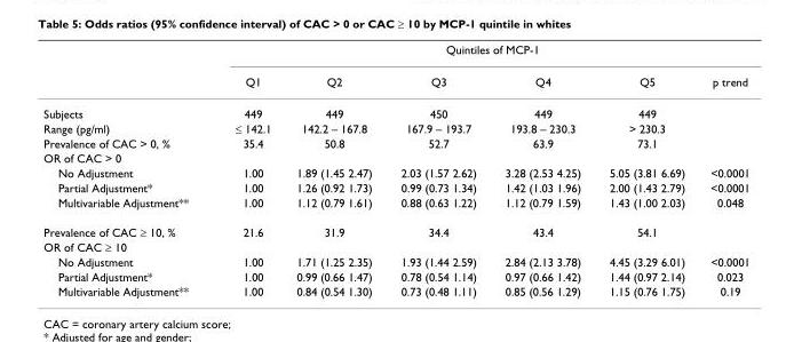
<table><thead><tr><td rowspan="2"></td><td colspan="6">Quintiles of MCP-1</td></tr><tr><td>Q1</td><td>Q2</td><td>Q3</td><td>Q4</td><td>Q5</td><td>p trend</td></tr></thead><tbody><tr><td>Subjects</td><td>449</td><td>449</td><td>450</td><td>449</td><td>449</td><td></td></tr><tr><td>Range (pg/ml)</td><td>≤ 142.1</td><td>142.2 – 167.8</td><td>167.9 – 193.7</td><td>193.8 – 230.3</td><td>&gt; 230.3</td><td></td></tr><tr><td>Prevalence of CAC &gt; 0, %</td><td>35.4</td><td>50.8</td><td>52.7</td><td>63.9</td><td>73.1</td><td></td></tr><tr><td colspan="7">OR of CAC &gt; 0</td></tr><tr><td>No Adjustment</td><td>1.00</td><td>1.89 (1.45 2.47)</td><td>2.03 (1.57 2.62)</td><td>3.28 (2.53 4.25)</td><td>5.05 (3.81 6.69)</td><td>&lt;0.0001</td></tr><tr><td>Partial Adjustment*</td><td>1.00</td><td>1.26 (0.92 1.73)</td><td>0.99 (0.73 1.34)</td><td>1.42 (1.03 1.96)</td><td>2.00 (1.43 2.79)</td><td>&lt;0.0001</td></tr><tr><td>Multivariable Adjustment**</td><td>1.00</td><td>1.12 (0.79 1.61)</td><td>0.88 (0.63 1.22)</td><td>1.12 (0.79 1.59)</td><td>1.43 (1.00 2.03)</td><td>0.048</td></tr><tr><td>Prevalence of CAC ≥ 10, %</td><td>21.6</td><td>31.9</td><td>34.4</td><td>43.4</td><td>54.1</td><td></td></tr><tr><td colspan="7">OR of CAC ≥ 10</td></tr><tr><td>No Adjustment</td><td>1.00</td><td>1.71 (1.25 2.35)</td><td>1.93 (1.44 2.59)</td><td>2.84 (2.13 3.78)</td><td>4.45 (3.29 6.01)</td><td>&lt;0.0001</td></tr><tr><td>Partial Adjustment*</td><td>1.00</td><td>0.99 (0.66 1.47)</td><td>0.78 (0.54 1.14)</td><td>0.97 (0.66 1.42)</td><td>1.44 (0.97 2.14)</td><td>0.023</td></tr><tr><td>Multivariable Adjustment**</td><td>1.00</td><td>0.84 (0.54 1.30)</td><td>0.73 (0.48 1.11)</td><td>0.85 (0.56 1.29)</td><td>1.15 (0.76 1.75)</td><td>0.19</td></tr></tbody></table>